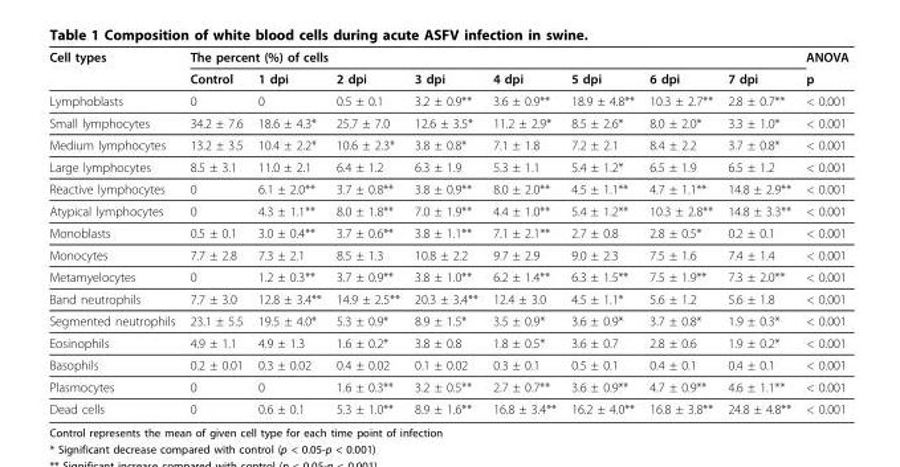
<table><thead><tr><td rowspan="2">Cell types</td><td colspan="8">The percent (%) of cells</td><td rowspan="2">ANOVA p</td></tr><tr><td>Control</td><td>1 dpi</td><td>2 dpi</td><td>3 dpi</td><td>4 dpi</td><td>5 dpi</td><td>6 dpi</td><td>7 dpi</td></tr></thead><tbody><tr><td>Lymphoblasts</td><td>0</td><td>0</td><td>0.5 ± 0.1</td><td>3.2 ± 0.9**</td><td>3.6 ± 0.9**</td><td>18.9 ± 4.8**</td><td>10.3 ± 2.7**</td><td>2.8 ± 0.7**</td><td>&lt; 0.001</td></tr><tr><td>Small lymphocytes</td><td>34.2 ± 7.6</td><td>18.6 ± 4.3*</td><td>25.7 ± 7.0</td><td>12.6 ± 3.5*</td><td>11.2 ± 2.9*</td><td>8.5 ± 2.6*</td><td>8.0 ± 2.0*</td><td>3.3 ± 1.0*</td><td>&lt; 0.001</td></tr><tr><td>Medium lymphocytes</td><td>13.2 ± 3.5</td><td>10.4 ± 2.2*</td><td>10.6 ± 2.3*</td><td>3.8 ± 0.8*</td><td>7.1 ± 1.8</td><td>7.2 ± 2.1</td><td>8.4 ± 2.2</td><td>3.7 ± 0.8*</td><td>&lt; 0.001</td></tr><tr><td>Large lymphocytes</td><td>8.5 ± 3.1</td><td>11.0 ± 2.1</td><td>6.4 ± 1.2</td><td>6.3 ± 1.9</td><td>5.3 ± 1.1</td><td>5.4 ± 1.2*</td><td>6.5 ± 1.9</td><td>6.5 ± 1.2</td><td>&lt; 0.001</td></tr><tr><td>Reactive lymphocytes</td><td>0</td><td>6.1 ± 2.0**</td><td>3.7 ± 0.8**</td><td>3.8 ± 0.9**</td><td>8.0 ± 2.0**</td><td>4.5 ± 1.1**</td><td>4.7 ± 1.1**</td><td>14.8 ± 2.9**</td><td>&lt; 0.001</td></tr><tr><td>Atypical lymphocytes</td><td>0</td><td>4.3 ± 1.1**</td><td>8.0 ± 1.8**</td><td>7.0 ± 1.9**</td><td>4.4 ± 1.0**</td><td>5.4 ± 1.2**</td><td>10.3 ± 2.8**</td><td>14.8 ± 3.3**</td><td>&lt; 0.001</td></tr><tr><td>Monoblasts</td><td>0.5 ± 0.1</td><td>3.0 ± 0.4**</td><td>3.7 ± 0.6**</td><td>3.8 ± 1.1**</td><td>7.1 ± 2.1**</td><td>2.7 ± 0.8</td><td>2.8 ± 0.5*</td><td>0.2 ± 0.1</td><td>&lt; 0.001</td></tr><tr><td>Monocytes</td><td>7.7 ± 2.8</td><td>7.3 ± 2.1</td><td>8.5 ± 1.3</td><td>10.8 ± 2.2</td><td>9.7 ± 2.9</td><td>9.0 ± 2.3</td><td>7.5 ± 1.6</td><td>7.4 ± 1.4</td><td>&lt; 0.001</td></tr><tr><td>Metamyelocytes</td><td>0</td><td>1.2 ± 0.3**</td><td>3.7 ± 0.9**</td><td>3.8 ± 1.0**</td><td>6.2 ± 1.4**</td><td>6.3 ± 1.5**</td><td>7.5 ± 1.9**</td><td>7.3 ± 2.0**</td><td>&lt; 0.001</td></tr><tr><td>Band neutrophils</td><td>7.7 ± 3.0</td><td>12.8 ± 3.4**</td><td>14.9 ± 2.5**</td><td>20.3 ± 3.4**</td><td>12.4 ± 3.0</td><td>4.5 ± 1.1*</td><td>5.6 ± 1.2</td><td>5.6 ± 1.8</td><td>&lt; 0.001</td></tr><tr><td>Segmented neutrophils</td><td>23.1 ± 5.5</td><td>19.5 ± 4.0*</td><td>5.3 ± 0.9*</td><td>8.9 ± 1.5*</td><td>3.5 ± 0.9*</td><td>3.6 ± 0.9*</td><td>3.7 ± 0.8*</td><td>1.9 ± 0.3*</td><td>&lt; 0.001</td></tr><tr><td>Eosinophils</td><td>4.9 ± 1.1</td><td>4.9 ± 1.3</td><td>1.6 ± 0.2*</td><td>3.8 ± 0.8</td><td>1.8 ± 0.5*</td><td>3.6 ± 0.7</td><td>2.8 ± 0.6</td><td>1.9 ± 0.2*</td><td>&lt; 0.001</td></tr><tr><td>Basophils</td><td>0.2 ± 0.01</td><td>0.3 ± 0.02</td><td>0.4 ± 0.02</td><td>0.1 ± 0.02</td><td>0.3 ± 0.1</td><td>0.5 ± 0.1</td><td>0.4 ± 0.1</td><td>0.4 ± 0.1</td><td>&lt; 0.001</td></tr><tr><td>Plasmocytes</td><td>0</td><td>0</td><td>1.6 ± 0.3**</td><td>3.2 ± 0.5**</td><td>2.7 ± 0.7**</td><td>3.6 ± 0.9**</td><td>4.7 ± 0.9**</td><td>4.6 ± 1.1**</td><td>&lt; 0.001</td></tr><tr><td>Dead cells</td><td>0</td><td>0.6 ± 0.1</td><td>5.3 ± 1.0**</td><td>8.9 ± 1.6**</td><td>16.8 ± 3.4**</td><td>16.2 ± 4.0**</td><td>16.8 ± 3.8**</td><td>24.8 ± 4.8**</td><td>&lt; 0.001</td></tr></tbody></table>